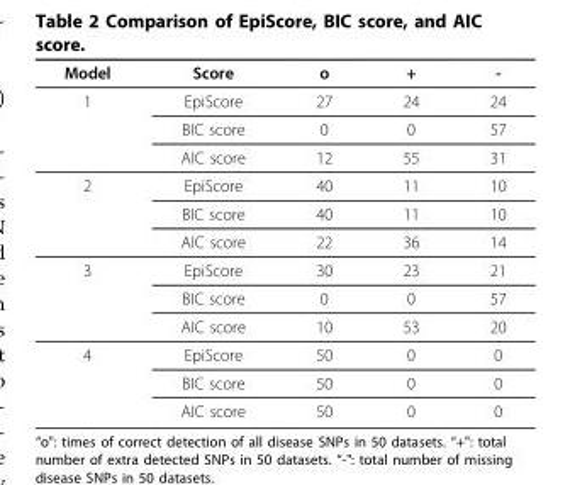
<table><thead><tr><td>Model</td><td>Score</td><td>o</td><td>+</td><td>-</td></tr></thead><tbody><tr><td rowspan="3">1</td><td>EpiScore</td><td>27</td><td>24</td><td>24</td></tr><tr><td>BIC score</td><td>0</td><td>0</td><td>57</td></tr><tr><td>AIC score</td><td>12</td><td>55</td><td>31</td></tr><tr><td rowspan="3">2</td><td>EpiScore</td><td>40</td><td>11</td><td>10</td></tr><tr><td>BIC score</td><td>40</td><td>11</td><td>10</td></tr><tr><td>AIC score</td><td>22</td><td>36</td><td>14</td></tr><tr><td rowspan="3">3</td><td>EpiScore</td><td>30</td><td>23</td><td>21</td></tr><tr><td>BIC score</td><td>0</td><td>0</td><td>57</td></tr><tr><td>AIC score</td><td>10</td><td>53</td><td>20</td></tr><tr><td rowspan="3">4</td><td>EpiScore</td><td>50</td><td>0</td><td>0</td></tr><tr><td>BIC score</td><td>50</td><td>0</td><td>0</td></tr><tr><td>AIC score</td><td>50</td><td>0</td><td>0</td></tr></tbody></table>